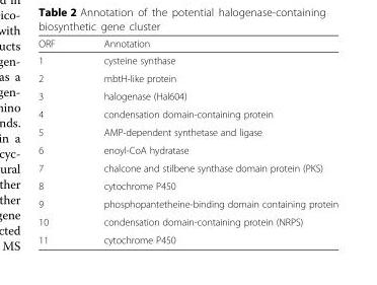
<table><thead><tr><td>ORF</td><td>Annotation</td></tr></thead><tbody><tr><td>1</td><td>cysteine synthase</td></tr><tr><td>2</td><td>mbtH-like protein</td></tr><tr><td>3</td><td>halogenase (Hal604)</td></tr><tr><td>4</td><td>condensation domain-containing protein</td></tr><tr><td>5</td><td>AMP-dependent synthetase and ligase</td></tr><tr><td>6</td><td>enoyl-CoA hydratase</td></tr><tr><td>7</td><td>chalcone and stilbene synthase domain protein (PKS)</td></tr><tr><td>8</td><td>cytochrome P450</td></tr><tr><td>9</td><td>phosphopantetheine-binding domain containing protein</td></tr><tr><td>10</td><td>condensation domain-containing protein (NRPS)</td></tr><tr><td>11</td><td>cytochrome P450</td></tr></tbody></table>